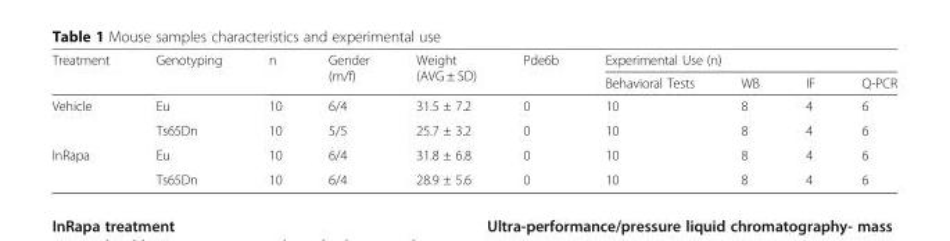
<table><thead><tr><td rowspan="2">Treatment</td><td rowspan="2">Genotyping</td><td rowspan="2">n</td><td rowspan="2">Gender (m/f)</td><td rowspan="2">Weight (AVG ± SD)</td><td rowspan="2">Pde6b</td><td colspan="4">Experimental Use (n)</td></tr><tr><td>Behavioral Tests</td><td>WB</td><td>IF</td><td>Q-PCR</td></tr></thead><tbody><tr><td rowspan="2">Vehicle</td><td>Eu</td><td>10</td><td>6/4</td><td>31.5 ± 7.2</td><td>0</td><td>10</td><td>8</td><td>4</td><td>6</td></tr><tr><td>Ts65Dn</td><td>10</td><td>5/5</td><td>25.7 ± 3.2</td><td>0</td><td>10</td><td>8</td><td>4</td><td>6</td></tr><tr><td rowspan="2">InRapa</td><td>Eu</td><td>10</td><td>6/4</td><td>31.8 ± 6.8</td><td>0</td><td>10</td><td>8</td><td>4</td><td>6</td></tr><tr><td>Ts65Dn</td><td>10</td><td>6/4</td><td>28.9 ± 5.6</td><td>0</td><td>10</td><td>8</td><td>4</td><td>6</td></tr></tbody></table>